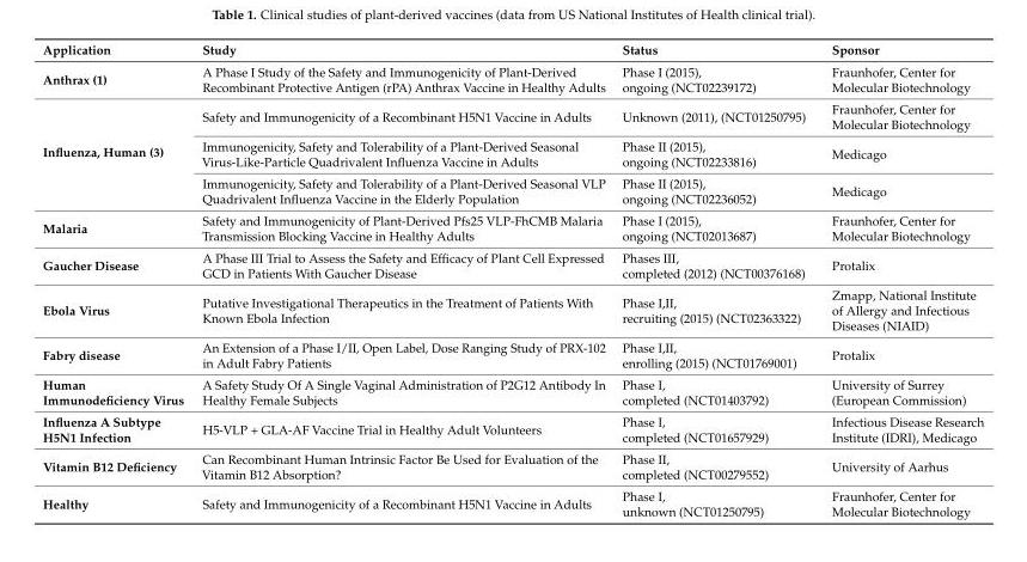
<table><thead><tr><td>Application</td><td>Study</td><td>Status</td><td>Sponsor</td></tr></thead><tbody><tr><td>Anthrax (1)</td><td>A Phase I Study of the Safety and Immunogenicity of Plant-Derived Recombinant Protective Antigen (rPA) Anthrax Vaccine in Healthy Adults</td><td>Phase I (2015), ongoing (NCT02239172)</td><td>Fraunhofer, Center for Molecular Biotechnology</td></tr><tr><td rowspan="3">Influenza, Human (3)</td><td>Safety and Immunogenicity of a Recombinant H5N1 Vaccine in Adults</td><td>Unknown (2011), (NCT01250795)</td><td>Fraunhofer, Center for Molecular Biotechnology</td></tr><tr><td>Immunogenicity, Safety and Tolerability of a Plant-Derived Seasonal Virus-Like-Particle Quadrivalent Influenza Vaccine in Adults</td><td>Phase II (2015), ongoing (NCT02233816)</td><td>Medicago</td></tr><tr><td>Immunogenicity, Safety and Tolerability of a Plant-Derived Seasonal VLP Quadrivalent Influenza Vaccine in the Elderly Population</td><td>Phase II (2015), ongoing (NCT02236052)</td><td>Medicago</td></tr><tr><td>Malaria</td><td>Safety and Immunogenicity of Plant-Derived Pfs25 VLP-FhCMB Malaria Transmission Blocking Vaccine in Healthy Adults</td><td>Phase I (2015), ongoing (NCT02013687)</td><td>Fraunhofer, Center for Molecular Biotechnology</td></tr><tr><td>Gaucher Disease</td><td>A Phase III Trial to Assess the Safety and Efficacy of Plant Cell Expressed GCD in Patients With Gaucher Disease</td><td>Phases III, completed (2012) (NCT00376168)</td><td>Protalix</td></tr><tr><td>Ebola Virus</td><td>Putative Investigational Therapeutics in the Treatment of Patients With Known Ebola Infection</td><td>Phase I,II, recruiting (2015) (NCT02363322)</td><td>Zmapp, National Institute of Allergy and Infectious Diseases (NIAID)</td></tr><tr><td>Fabry disease</td><td>An Extension of a Phase I/II, Open Label, Dose Ranging Study of PRX-102 in Adult Fabry Patients</td><td>Phase I,II, enrolling (2015) (NCT01769001)</td><td>Protalix</td></tr><tr><td>Human Immunodeficiency Virus</td><td>A Safety Study Of A Single Vaginal Administration of P2G12 Antibody In Healthy Female Subjects</td><td>Phase I, completed (NCT01403792)</td><td>University of Surrey (European Commission)</td></tr><tr><td>Influenza A Subtype H5N1 Infection</td><td>H5-VLP + GLA-AF Vaccine Trial in Healthy Adult Volunteers</td><td>Phase I, completed (NCT01657929)</td><td>Infectious Disease Research Institute (IDRI), Medicago</td></tr><tr><td>Vitamin B12 Deficiency</td><td>Can Recombinant Human Intrinsic Factor Be Used for Evaluation of the Vitamin B12 Absorption?</td><td>Phase II, completed (NCT00279552)</td><td>University of Aarhus</td></tr><tr><td>Healthy</td><td>Safety and Immunogenicity of a Recombinant H5N1 Vaccine in Adults</td><td>Phase I, unknown (NCT01250795)</td><td>Fraunhofer, Center for Molecular Biotechnology</td></tr></tbody></table>